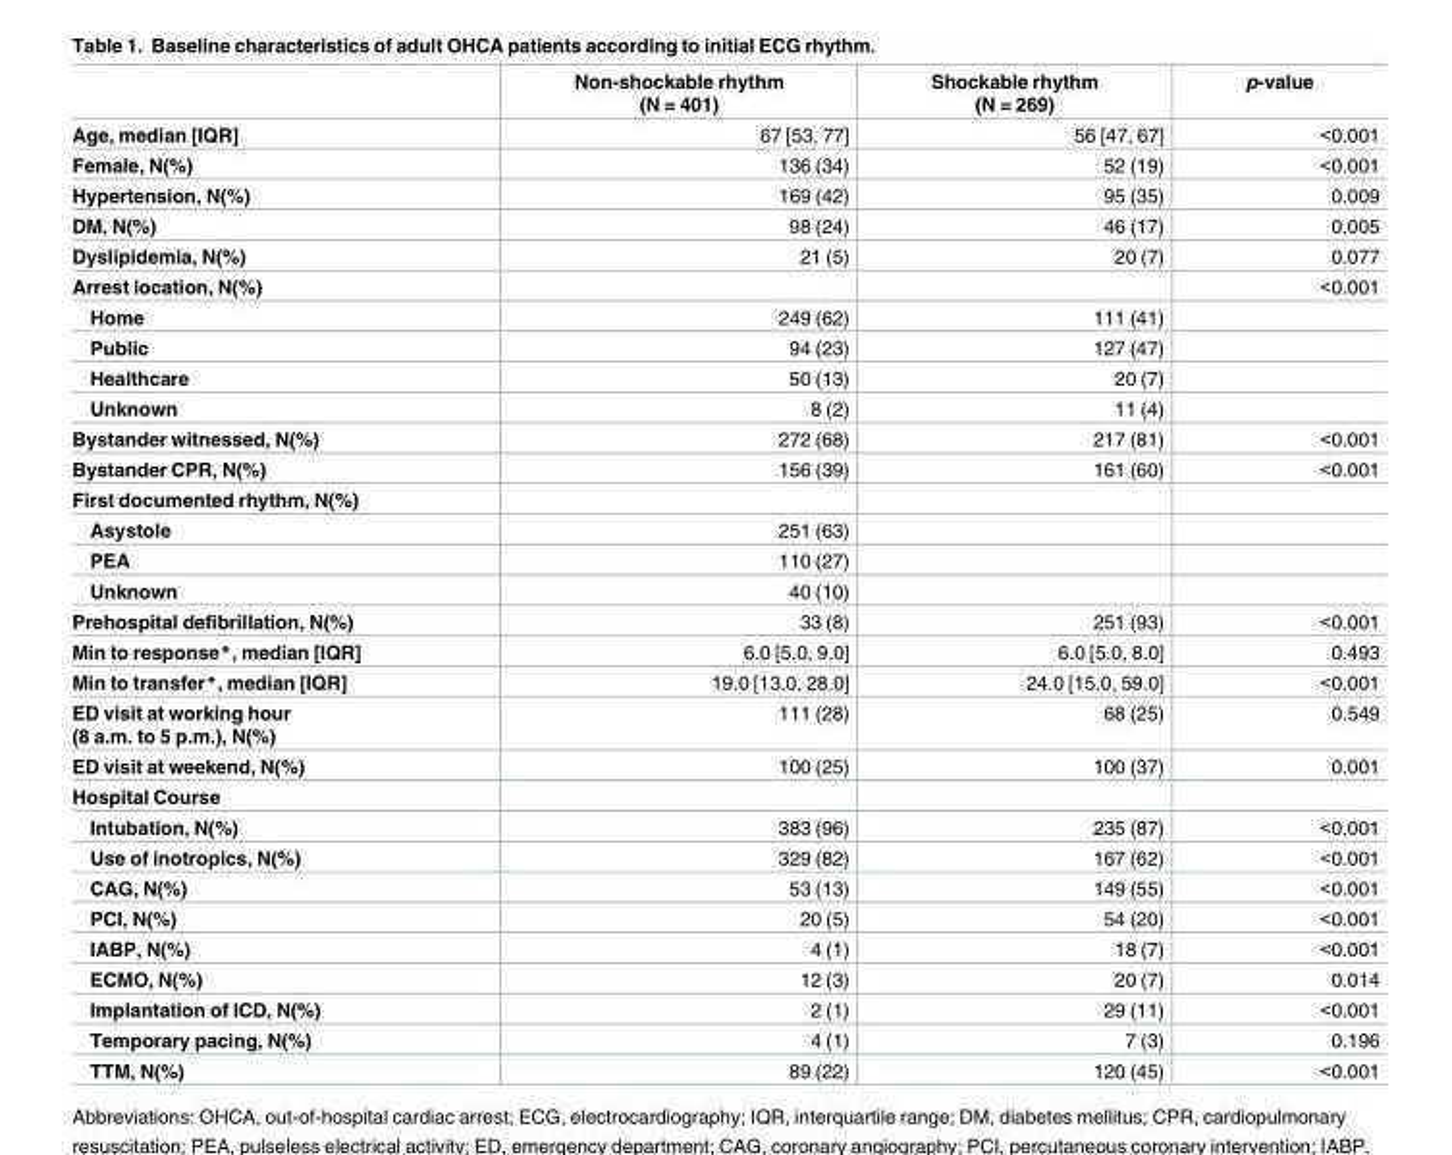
<table><thead><tr><td></td><td>Non-shockable rhythm (N = 401)</td><td>Shockable rhythm (N = 269)</td><td>p-value</td></tr></thead><tbody><tr><td>Age, median [IQR]</td><td>67 [53, 77]</td><td>56 [47, 67]</td><td>&lt;0.001</td></tr><tr><td>Female, N(%)</td><td>136 (34)</td><td>52 (19)</td><td>&lt;0.001</td></tr><tr><td>Hypertension, N(%)</td><td>169 (42)</td><td>95 (35)</td><td>0.009</td></tr><tr><td>DM, N(%)</td><td>98 (24)</td><td>46 (17)</td><td>0.005</td></tr><tr><td>Dyslipidemia, N(%)</td><td>21 (5)</td><td>20 (7)</td><td>0.077</td></tr><tr><td>Arrest location, N(%)</td><td></td><td></td><td>&lt;0.001</td></tr><tr><td>Home</td><td>249 (62)</td><td>111 (41)</td><td></td></tr><tr><td>Public</td><td>94 (23)</td><td>127 (47)</td><td></td></tr><tr><td>Healthcare</td><td>50 (13)</td><td>20 (7)</td><td></td></tr><tr><td>Unknown</td><td>8 (2)</td><td>11 (4)</td><td></td></tr><tr><td>Bystander witnessed, N(%)</td><td>272 (68)</td><td>217 (81)</td><td>&lt;0.001</td></tr><tr><td>Bystander CPR, N(%)</td><td>156 (39)</td><td>161 (60)</td><td>&lt;0.001</td></tr><tr><td colspan="4">First documented rhythm, N(%)</td></tr><tr><td>Asystole</td><td>251 (63)</td><td></td><td></td></tr><tr><td>PEA</td><td>110 (27)</td><td></td><td></td></tr><tr><td>Unknown</td><td>40 (10)</td><td></td><td></td></tr><tr><td>Prehospital defibrillation, N(%)</td><td>33 (8)</td><td>251 (93)</td><td>&lt;0.001</td></tr><tr><td>Min to response*, median [IQR]</td><td>6.0 [5.0, 9.0]</td><td>6.0 [5.0, 8.0]</td><td>0.493</td></tr><tr><td>Min to transfer*, median [IQR]</td><td>19.0 [13.0, 28.0]</td><td>24.0 [15.0, 59.0]</td><td>&lt;0.001</td></tr><tr><td>ED visit at working hour (8 a.m. to 5 p.m.), N(%)</td><td>111 (28)</td><td>68 (25)</td><td>0.549</td></tr><tr><td>ED visit at weekend, N(%)</td><td>100 (25)</td><td>100 (37)</td><td>0.001</td></tr><tr><td colspan="4">Hospital Course</td></tr><tr><td>Intubation, N(%)</td><td>383 (96)</td><td>235 (87)</td><td>&lt;0.001</td></tr><tr><td>Use of inotropics, N(%)</td><td>329 (82)</td><td>167 (62)</td><td>&lt;0.001</td></tr><tr><td>CAG, N(%)</td><td>53 (13)</td><td>149 (55)</td><td>&lt;0.001</td></tr><tr><td>PCI, N(%)</td><td>20 (5)</td><td>54 (20)</td><td>&lt;0.001</td></tr><tr><td>IABP, N(%)</td><td>4 (1)</td><td>18 (7)</td><td>&lt;0.001</td></tr><tr><td>ECMO, N(%)</td><td>12 (3)</td><td>20 (7)</td><td>0.014</td></tr><tr><td>Implantation of ICD, N(%)</td><td>2 (1)</td><td>29 (11)</td><td>&lt;0.001</td></tr><tr><td>Temporary pacing, N(%)</td><td>4 (1)</td><td>7 (3)</td><td>0.196</td></tr><tr><td>TTM, N(%)</td><td>89 (22)</td><td>120 (45)</td><td>&lt;0.001</td></tr></tbody></table>